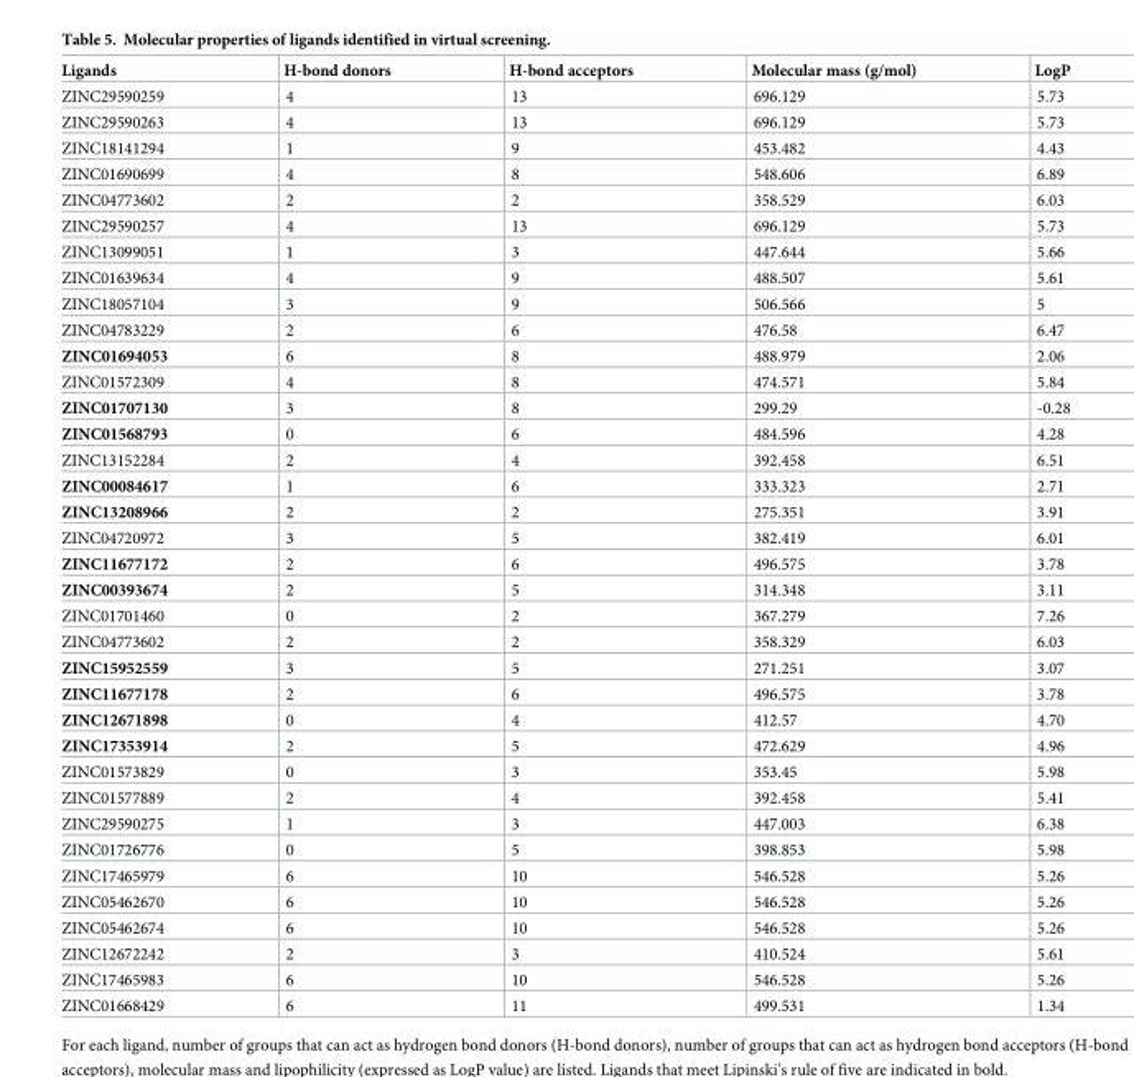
<table><thead><tr><td>Ligands</td><td>H-bond donors</td><td>H-bond acceptors</td><td>Molecular mass (g/mol)</td><td>LogP</td></tr></thead><tbody><tr><td>ZINC29590259</td><td>4</td><td>13</td><td>696.129</td><td>5.73</td></tr><tr><td>ZINC29590263</td><td>4</td><td>13</td><td>696.129</td><td>5.73</td></tr><tr><td>ZINC18141294</td><td>1</td><td>9</td><td>453.482</td><td>4.43</td></tr><tr><td>ZINC01690699</td><td>4</td><td>8</td><td>548.606</td><td>6.89</td></tr><tr><td>ZINC04773602</td><td>2</td><td>2</td><td>358.529</td><td>6.03</td></tr><tr><td>ZINC29590257</td><td>4</td><td>13</td><td>696.129</td><td>5.73</td></tr><tr><td>ZINC13099051</td><td>1</td><td>3</td><td>447.644</td><td>5.66</td></tr><tr><td>ZINC01639634</td><td>4</td><td>9</td><td>488.507</td><td>5.61</td></tr><tr><td>ZINC18057104</td><td>3</td><td>9</td><td>506.566</td><td>5</td></tr><tr><td>ZINC04783229</td><td>2</td><td>6</td><td>476.58</td><td>6.47</td></tr><tr><td>ZINC01694053</td><td>6</td><td>8</td><td>488.979</td><td>2.06</td></tr><tr><td>ZINC01572309</td><td>4</td><td>8</td><td>474.571</td><td>5.84</td></tr><tr><td>ZINC01707130</td><td>3</td><td>8</td><td>299.29</td><td>-0.28</td></tr><tr><td>ZINC01568793</td><td>0</td><td>6</td><td>484.596</td><td>4.28</td></tr><tr><td>ZINC13152284</td><td>2</td><td>4</td><td>392.458</td><td>6.51</td></tr><tr><td>ZINC00084617</td><td>1</td><td>6</td><td>333.323</td><td>2.71</td></tr><tr><td>ZINC13208966</td><td>2</td><td>2</td><td>275.351</td><td>3.91</td></tr><tr><td>ZINC04720972</td><td>3</td><td>5</td><td>382.419</td><td>6.01</td></tr><tr><td>ZINC11677172</td><td>2</td><td>6</td><td>496.575</td><td>3.78</td></tr><tr><td>ZINC00393674</td><td>2</td><td>5</td><td>314.348</td><td>3.11</td></tr><tr><td>ZINC01701460</td><td>0</td><td>2</td><td>367.279</td><td>7.26</td></tr><tr><td>ZINC04773602</td><td>2</td><td>2</td><td>358.329</td><td>6.03</td></tr><tr><td>ZINC15952559</td><td>3</td><td>5</td><td>271.251</td><td>3.07</td></tr><tr><td>ZINC11677178</td><td>2</td><td>6</td><td>496.575</td><td>3.78</td></tr><tr><td>ZINC12671898</td><td>0</td><td>4</td><td>412.57</td><td>4.70</td></tr><tr><td>ZINC17353914</td><td>2</td><td>5</td><td>472.629</td><td>4.96</td></tr><tr><td>ZINC01573829</td><td>0</td><td>3</td><td>353.45</td><td>5.98</td></tr><tr><td>ZINC01577889</td><td>2</td><td>4</td><td>392.458</td><td>5.41</td></tr><tr><td>ZINC29590275</td><td>1</td><td>3</td><td>447.003</td><td>6.38</td></tr><tr><td>ZINC01726776</td><td>0</td><td>5</td><td>398.853</td><td>5.98</td></tr><tr><td>ZINC17465979</td><td>6</td><td>10</td><td>546.528</td><td>5.26</td></tr><tr><td>ZINC05462670</td><td>6</td><td>10</td><td>546.528</td><td>5.26</td></tr><tr><td>ZINC05462674</td><td>6</td><td>10</td><td>546.528</td><td>5.26</td></tr><tr><td>ZINC12672242</td><td>2</td><td>3</td><td>410.524</td><td>5.61</td></tr><tr><td>ZINC17465983</td><td>6</td><td>10</td><td>546.528</td><td>5.26</td></tr><tr><td>ZINC01668429</td><td>6</td><td>11</td><td>499.531</td><td>1.34</td></tr></tbody></table>